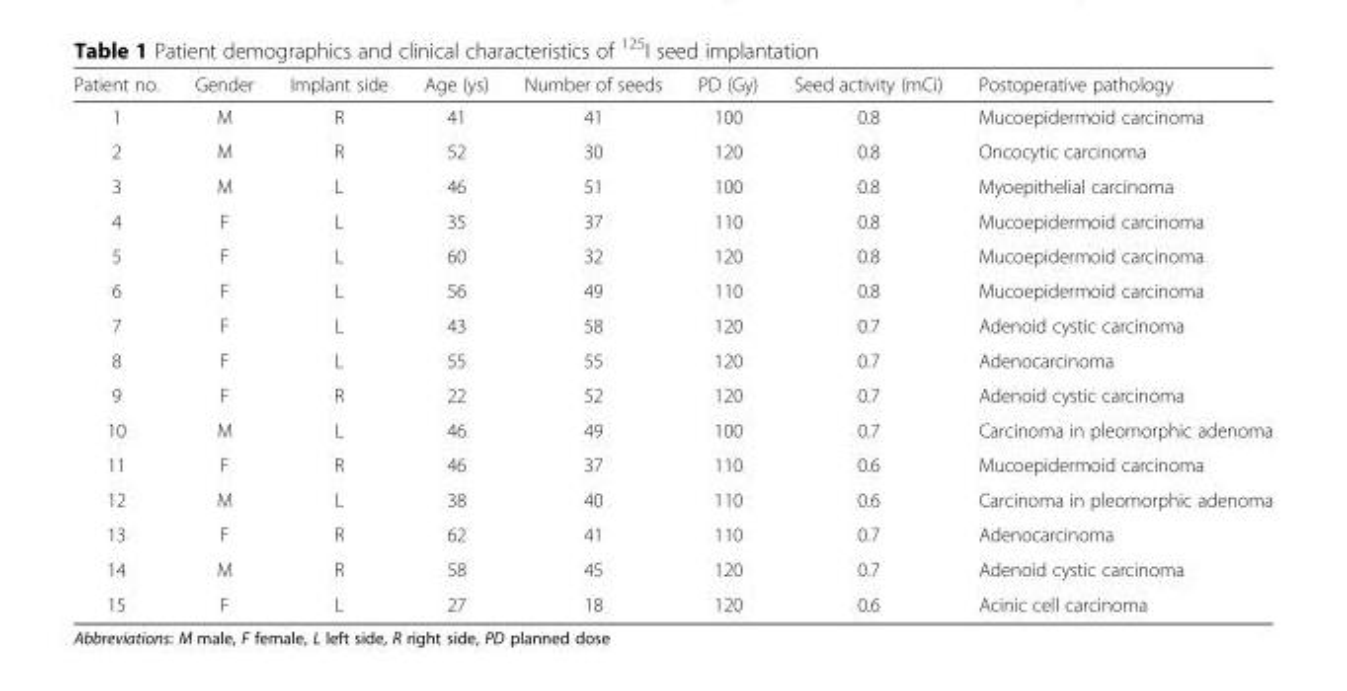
<table><thead><tr><td>Patient no.</td><td>Gender</td><td>Implant side</td><td>Age (ys)</td><td>Number of seeds</td><td>PD (Gy)</td><td>Seed activity (mCi)</td><td>Postoperative pathology</td></tr></thead><tbody><tr><td>1</td><td>M</td><td>R</td><td>41</td><td>41</td><td>100</td><td>0.8</td><td>Mucoepidermoid carcinoma</td></tr><tr><td>2</td><td>M</td><td>R</td><td>52</td><td>30</td><td>120</td><td>0.8</td><td>Oncocytic carcinoma</td></tr><tr><td>3</td><td>M</td><td>L</td><td>46</td><td>51</td><td>100</td><td>0.8</td><td>Myoepithelial carcinoma</td></tr><tr><td>4</td><td>F</td><td>L</td><td>35</td><td>37</td><td>110</td><td>0.8</td><td>Mucoepidermoid carcinoma</td></tr><tr><td>5</td><td>F</td><td>L</td><td>60</td><td>32</td><td>120</td><td>0.8</td><td>Mucoepidermoid carcinoma</td></tr><tr><td>6</td><td>F</td><td>L</td><td>56</td><td>49</td><td>110</td><td>0.8</td><td>Mucoepidermoid carcinoma</td></tr><tr><td>7</td><td>F</td><td>L</td><td>43</td><td>58</td><td>120</td><td>0.7</td><td>Adenoid cystic carcinoma</td></tr><tr><td>8</td><td>F</td><td>L</td><td>55</td><td>55</td><td>120</td><td>0.7</td><td>Adenocarcinoma</td></tr><tr><td>9</td><td>F</td><td>R</td><td>22</td><td>52</td><td>120</td><td>0.7</td><td>Adenoid cystic carcinoma</td></tr><tr><td>10</td><td>M</td><td>L</td><td>46</td><td>49</td><td>100</td><td>0.7</td><td>Carcinoma in pleomorphic adenoma</td></tr><tr><td>11</td><td>F</td><td>R</td><td>46</td><td>37</td><td>110</td><td>0.6</td><td>Mucoepidermoid carcinoma</td></tr><tr><td>12</td><td>M</td><td>L</td><td>38</td><td>40</td><td>110</td><td>0.6</td><td>Carcinoma in pleomorphic adenoma</td></tr><tr><td>13</td><td>F</td><td>R</td><td>62</td><td>41</td><td>110</td><td>0.7</td><td>Adenocarcinoma</td></tr><tr><td>14</td><td>M</td><td>R</td><td>58</td><td>45</td><td>120</td><td>0.7</td><td>Adenoid cystic carcinoma</td></tr><tr><td>15</td><td>F</td><td>L</td><td>27</td><td>18</td><td>120</td><td>0.6</td><td>Acinic cell carcinoma</td></tr></tbody></table>